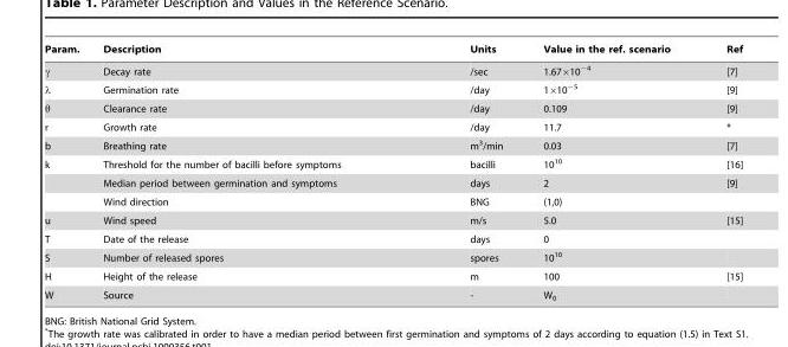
<table><thead><tr><td>Param.</td><td>Description</td><td>Units</td><td>Value in the ref. scenario</td><td>Ref</td></tr></thead><tbody><tr><td>γ</td><td>Decay rate</td><td>/sec</td><td>1.67×10<sup>−4</sup></td><td>[7]</td></tr><tr><td>λ</td><td>Germination rate</td><td>/day</td><td>1×10<sup>−5</sup></td><td>[9]</td></tr><tr><td>θ</td><td>Clearance rate</td><td>/day</td><td>0.109</td><td>[9]</td></tr><tr><td>r</td><td>Growth rate</td><td>/day</td><td>11.7</td><td>*</td></tr><tr><td>b</td><td>Breathing rate</td><td>m<sup>3</sup>/min</td><td>0.03</td><td>[7]</td></tr><tr><td rowspan="3">k</td><td>Threshold for the number of bacilli before symptoms</td><td>bacilli</td><td>10<sup>10</sup></td><td>[16]</td></tr><tr><td>Median period between germination and symptoms</td><td>days</td><td>2</td><td>[9]</td></tr><tr><td>Wind direction</td><td>BNG</td><td>(1,0)</td><td></td></tr><tr><td>u</td><td>Wind speed</td><td>m/s</td><td>5.0</td><td>[15]</td></tr><tr><td>T</td><td>Date of the release</td><td>days</td><td>0</td><td></td></tr><tr><td>S</td><td>Number of released spores</td><td>spores</td><td>10<sup>10</sup></td><td></td></tr><tr><td>H</td><td>Height of the release</td><td>m</td><td>100</td><td>[15]</td></tr><tr><td>W</td><td>Source</td><td>-</td><td>W<sub>0</sub></td><td></td></tr></tbody></table>